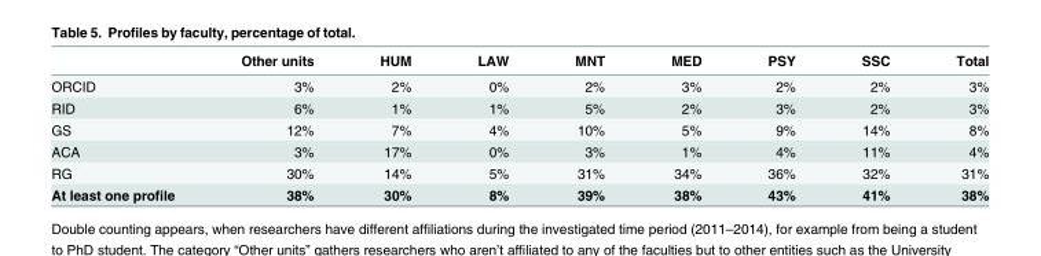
<table><thead><tr><td></td><td>Other units</td><td>HUM</td><td>LAW</td><td>MNT</td><td>MED</td><td>PSY</td><td>SSC</td><td>Total</td></tr></thead><tbody><tr><td>ORCID</td><td>3%</td><td>2%</td><td>0%</td><td>2%</td><td>3%</td><td>2%</td><td>2%</td><td>3%</td></tr><tr><td>RID</td><td>6%</td><td>1%</td><td>1%</td><td>5%</td><td>2%</td><td>3%</td><td>2%</td><td>3%</td></tr><tr><td>GS</td><td>12%</td><td>7%</td><td>4%</td><td>10%</td><td>5%</td><td>9%</td><td>14%</td><td>8%</td></tr><tr><td>ACA</td><td>3%</td><td>17%</td><td>0%</td><td>3%</td><td>1%</td><td>4%</td><td>11%</td><td>4%</td></tr><tr><td>RG</td><td>30%</td><td>14%</td><td>5%</td><td>31%</td><td>34%</td><td>36%</td><td>32%</td><td>31%</td></tr><tr><td>At least one profile</td><td>38%</td><td>30%</td><td>8%</td><td>39%</td><td>38%</td><td>43%</td><td>41%</td><td>38%</td></tr></tbody></table>